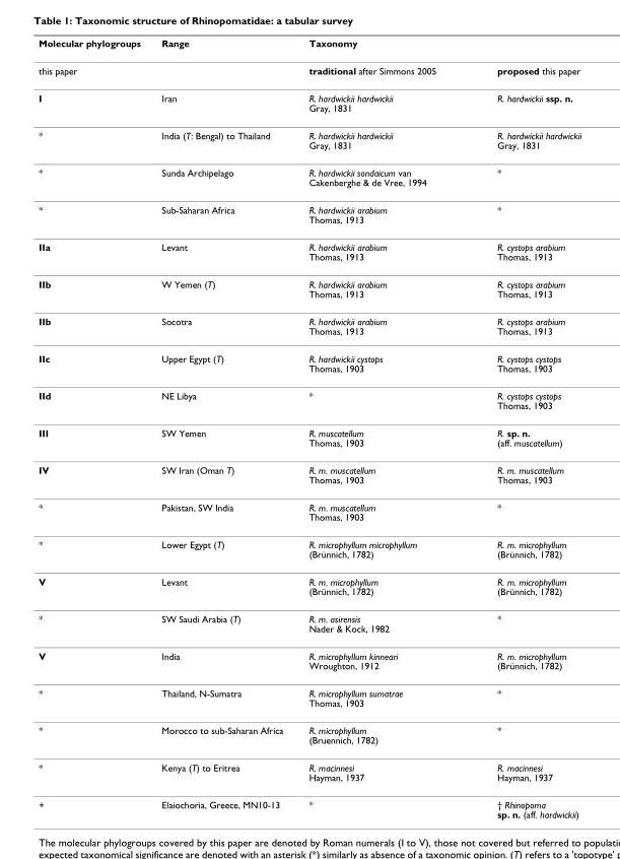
<table><thead><tr><td rowspan="2">Molecular phylogroups this paper</td><td rowspan="2">Range</td><td colspan="2">Taxonomy</td></tr><tr><td>traditional after Simmons 2005</td><td>proposed this paper</td></tr></thead><tbody><tr><td>I</td><td>Iran</td><td>R. hardwickii hardwickii Gray, 1831</td><td>R. hardwickii ssp. n.</td></tr><tr><td>*</td><td>India (T: Bengal) to Thailand</td><td>R. hardwickii hardwickii Gray, 1831</td><td>R. hardwickii hardwickii Gray, 1831</td></tr><tr><td>*</td><td>Sunda Archipelago</td><td>R. hardwickii sondaicum van Cakenberghe &amp; de Vree, 1994</td><td>*</td></tr><tr><td>*</td><td>Sub-Saharan Africa</td><td>R. hardwickii arabium Thomas, 1913</td><td>*</td></tr><tr><td>IIa</td><td>Levant</td><td>R. hardwickii arabium Thomas, 1913</td><td>R. cystops arabium Thomas, 1913</td></tr><tr><td>IIb</td><td>W Yemen (T)</td><td>R. hardwickii arabium Thomas, 1913</td><td>R. cystops arabium Thomas, 1913</td></tr><tr><td>IIb</td><td>Socotra</td><td>R. hardwickii arabium Thomas, 1913</td><td>R. cystops arabium Thomas, 1913</td></tr><tr><td>IIc</td><td>Upper Egypt (T)</td><td>R. hardwickii cystops Thomas, 1903</td><td>R. cystops cystops Thomas, 1903</td></tr><tr><td>IId</td><td>NE Libya</td><td>*</td><td>R. cystops cystops Thomas, 1903</td></tr><tr><td>III</td><td>SW Yemen</td><td>R. muscatellum Thomas, 1903</td><td>R. sp. n. (aff. muscatellum)</td></tr><tr><td>IV</td><td>SW Iran (Oman T)</td><td>R. m. muscatellum Thomas, 1903</td><td>R. m. muscatellum Thomas, 1903</td></tr><tr><td>*</td><td>Pakistan, SW India</td><td>R. m. muscatellum Thomas, 1903</td><td>*</td></tr><tr><td>*</td><td>Lower Egypt (T)</td><td>R. microphyllum microphyllum (Brünnich, 1782)</td><td>R. m. microphyllum (Brünnich, 1782)</td></tr><tr><td>V</td><td>Levant</td><td>R. m. microphyllum (Brünnich, 1782)</td><td>R. m. microphyllum (Brünnich, 1782)</td></tr><tr><td>*</td><td>SW Saudi Arabia (T)</td><td>R. m. asirensis Nader &amp; Kock, 1982</td><td>*</td></tr><tr><td>V</td><td>India</td><td>R. microphyllum kinneari Wroughton, 1912</td><td>R. m. microphyllum (Brünnich, 1782)</td></tr><tr><td>*</td><td>Thailand, N-Sumatra</td><td>R. microphyllum sumatrae Thomas, 1903</td><td>*</td></tr><tr><td>*</td><td>Morocco to sub-Saharan Africa</td><td>R. microphyllum (Bruennich, 1782)</td><td>*</td></tr><tr><td>*</td><td>Kenya (T) to Eritrea</td><td>R. macinnesi Hayman, 1937</td><td>R. macinnesi Hayman, 1937</td></tr><tr><td>+</td><td>Elaiochoria, Greece, MN10-13</td><td>*</td><td>† Rhinopoma sp. n. (aff. hardwickii)</td></tr></tbody></table>